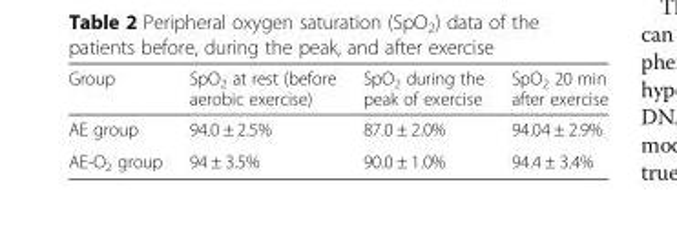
<table><thead><tr><td>Group</td><td>SpO<sub>2</sub> at rest (before aerobic exercise)</td><td>SpO<sub>2</sub> during the peak of exercise</td><td>SpO<sub>2</sub> 20 min after exercise</td></tr></thead><tbody><tr><td>AE group</td><td>94.0 ± 2.5%</td><td>87.0 ± 2.0%</td><td>94.04 ± 2.9%</td></tr><tr><td>AE-O<sub>2</sub> group</td><td>94 ± 3.5%</td><td>90.0 ± 1.0%</td><td>94.4 ± 3.4%</td></tr></tbody></table>